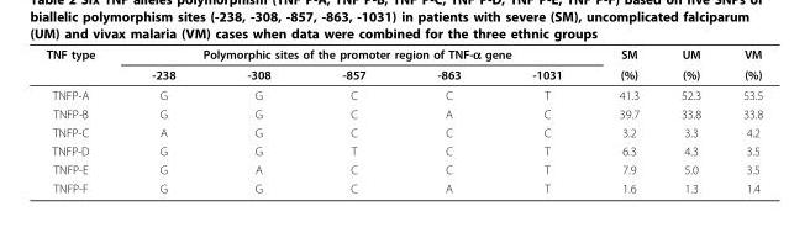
<table><thead><tr><td rowspan="2">TNF type</td><td colspan="5">Polymorphic sites of the promoter region of TNF-α gene</td><td rowspan="2">SM (%)</td><td rowspan="2">UM (%)</td><td rowspan="2">VM (%)</td></tr><tr><td>-238</td><td>-308</td><td>-857</td><td>-863</td><td>-1031</td></tr></thead><tbody><tr><td>TNFP-A</td><td>G</td><td>G</td><td>C</td><td>C</td><td>T</td><td>41.3</td><td>52.3</td><td>53.5</td></tr><tr><td>TNFP-B</td><td>G</td><td>G</td><td>C</td><td>A</td><td>C</td><td>39.7</td><td>33.8</td><td>33.8</td></tr><tr><td>TNFP-C</td><td>A</td><td>G</td><td>C</td><td>C</td><td>C</td><td>3.2</td><td>3.3</td><td>4.2</td></tr><tr><td>TNFP-D</td><td>G</td><td>G</td><td>T</td><td>C</td><td>T</td><td>6.3</td><td>4.3</td><td>3.5</td></tr><tr><td>TNFP-E</td><td>G</td><td>A</td><td>C</td><td>C</td><td>T</td><td>7.9</td><td>5.0</td><td>3.5</td></tr><tr><td>TNFP-F</td><td>G</td><td>G</td><td>C</td><td>A</td><td>T</td><td>1.6</td><td>1.3</td><td>1.4</td></tr></tbody></table>